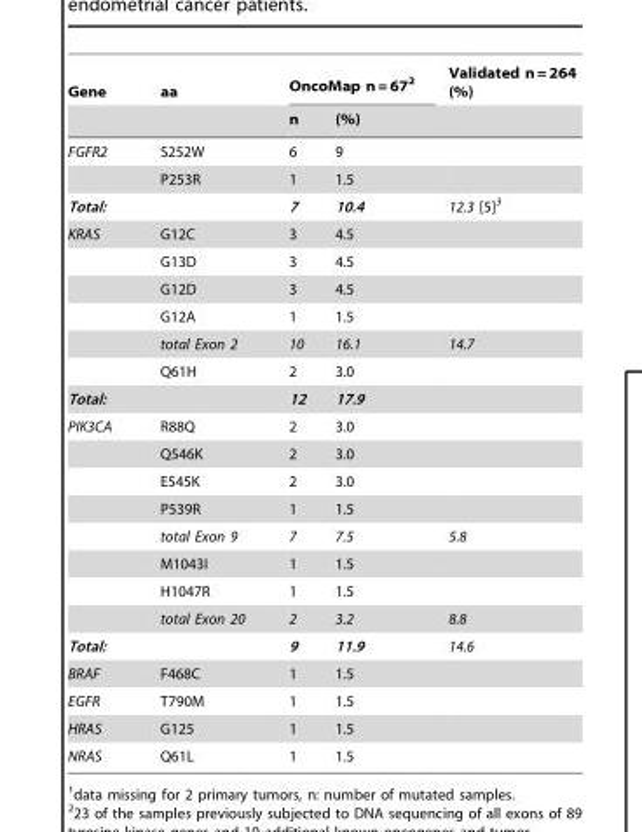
<table><thead><tr><td rowspan="2">Gene</td><td rowspan="2">aa</td><td colspan="2">OncoMap n = 67<sup>2</sup></td><td rowspan="2">Validated n = 264 (%)</td></tr><tr><td>n</td><td>(%)</td></tr></thead><tbody><tr><td rowspan="2">FGFR2</td><td>S252W</td><td>6</td><td>9</td><td></td></tr><tr><td>P253R</td><td>1</td><td>1.5</td><td></td></tr><tr><td>Total:</td><td></td><td>7</td><td>10.4</td><td>12.3 [5]3</td></tr><tr><td rowspan="6">KRAS</td><td>G12C</td><td>3</td><td>4.5</td><td></td></tr><tr><td>G13D</td><td>3</td><td>4.5</td><td></td></tr><tr><td>G12D</td><td>3</td><td>4.5</td><td></td></tr><tr><td>G12A</td><td>1</td><td>1.5</td><td></td></tr><tr><td>total Exon 2</td><td>10</td><td>16.1</td><td>14.7</td></tr><tr><td>Q61H</td><td>2</td><td>3.0</td><td></td></tr><tr><td>Total:</td><td></td><td>12</td><td>17.9</td><td></td></tr><tr><td rowspan="8">PIK3CA</td><td>R88Q</td><td>2</td><td>3.0</td><td></td></tr><tr><td>Q546K</td><td>2</td><td>3.0</td><td></td></tr><tr><td>E545K</td><td>2</td><td>3.0</td><td></td></tr><tr><td>P539R</td><td>1</td><td>1.5</td><td></td></tr><tr><td>total Exon 9</td><td>7</td><td>7.5</td><td>5.8</td></tr><tr><td>M1043I</td><td>1</td><td>1.5</td><td></td></tr><tr><td>H1047R</td><td>1</td><td>1.5</td><td></td></tr><tr><td>total Exon 20</td><td>2</td><td>3.2</td><td>8.8</td></tr><tr><td>Total:</td><td></td><td>9</td><td>11.9</td><td>14.6</td></tr><tr><td>BRAF</td><td>F468C</td><td>1</td><td>1.5</td><td></td></tr><tr><td>EGFR</td><td>T790M</td><td>1</td><td>1.5</td><td></td></tr><tr><td>HRAS</td><td>G125</td><td>1</td><td>1.5</td><td></td></tr><tr><td>NRAS</td><td>Q61L</td><td>1</td><td>1.5</td><td></td></tr></tbody></table>